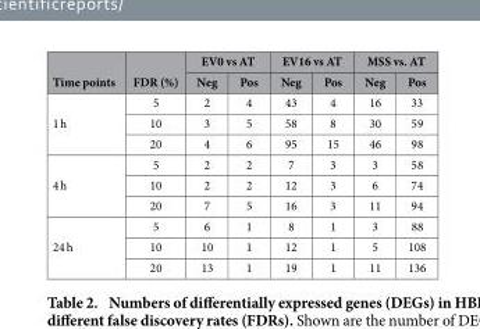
<table><thead><tr><td rowspan="2">Time points</td><td rowspan="2">FDR (%)</td><td colspan="2">EV0 vs AT</td><td colspan="2">EV16 vs AT</td><td colspan="2">MSS vs. AT</td></tr><tr><td>Neg</td><td>Pos</td><td>Neg</td><td>Pos</td><td>Neg</td><td>Pos</td></tr></thead><tbody><tr><td rowspan="3">1 h</td><td>5</td><td>2</td><td>4</td><td>43</td><td>4</td><td>16</td><td>33</td></tr><tr><td>10</td><td>3</td><td>5</td><td>58</td><td>8</td><td>30</td><td>59</td></tr><tr><td>20</td><td>4</td><td>6</td><td>95</td><td>15</td><td>46</td><td>98</td></tr><tr><td rowspan="3">4 h</td><td>5</td><td>2</td><td>2</td><td>7</td><td>3</td><td>3</td><td>58</td></tr><tr><td>10</td><td>2</td><td>2</td><td>12</td><td>3</td><td>6</td><td>74</td></tr><tr><td>20</td><td>7</td><td>5</td><td>16</td><td>3</td><td>11</td><td>94</td></tr><tr><td rowspan="3">24 h</td><td>5</td><td>6</td><td>1</td><td>8</td><td>1</td><td>3</td><td>88</td></tr><tr><td>10</td><td>10</td><td>1</td><td>12</td><td>1</td><td>5</td><td>108</td></tr><tr><td>20</td><td>13</td><td>1</td><td>19</td><td>1</td><td>11</td><td>136</td></tr></tbody></table>